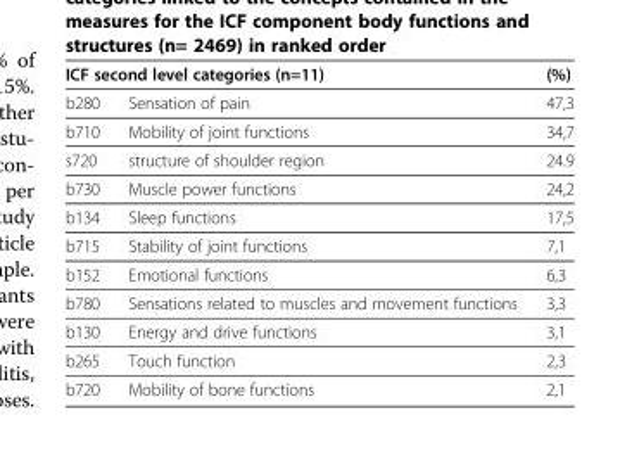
<table><thead><tr><td colspan="2">ICF second level categories (n=11)</td><td rowspan="2">(%) 47,3</td></tr><tr><td>b280</td><td>Sensation of pain</td></tr></thead><tbody><tr><td>b710</td><td>Mobility of joint functions</td><td>34,7</td></tr><tr><td>s720</td><td>structure of shoulder region</td><td>24.9</td></tr><tr><td>b730</td><td>Muscle power functions</td><td>24,2</td></tr><tr><td>b134</td><td>Sleep functions</td><td>17,5</td></tr><tr><td>b715</td><td>Stability of joint functions</td><td>7,1</td></tr><tr><td>b152</td><td>Emotional functions</td><td>6,3</td></tr><tr><td>b780</td><td>Sensations related to muscles and movement functions</td><td>3,3</td></tr><tr><td>b130</td><td>Energy and drive functions</td><td>3,1</td></tr><tr><td>b265</td><td>Touch function</td><td>2,3</td></tr><tr><td>b720</td><td>Mobility of bone functions</td><td>2,1</td></tr></tbody></table>